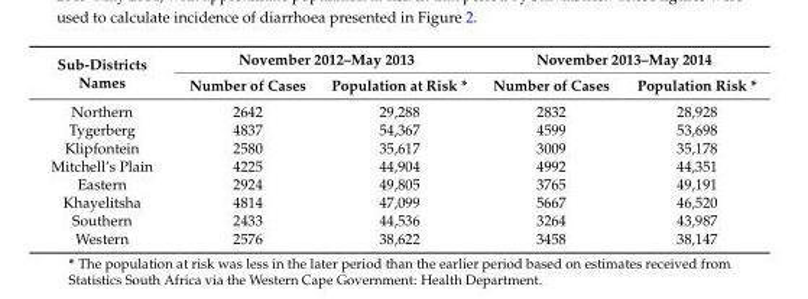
<table><thead><tr><td rowspan="2">Sub-Districts Names</td><td colspan="2">November 2012–May 2013</td><td colspan="2">November 2013–May 2014</td></tr><tr><td>Number of Cases</td><td>Population at Risk *</td><td>Number of Cases</td><td>Population Risk *</td></tr></thead><tbody><tr><td>Northern</td><td>2642</td><td>29,288</td><td>2832</td><td>28,928</td></tr><tr><td>Tygerberg</td><td>4837</td><td>54,367</td><td>4599</td><td>53,698</td></tr><tr><td>Klipfontein</td><td>2580</td><td>35,617</td><td>3009</td><td>35,178</td></tr><tr><td>Mitchell’s Plain</td><td>4225</td><td>44,904</td><td>4992</td><td>44,351</td></tr><tr><td>Eastern</td><td>2924</td><td>49,805</td><td>3765</td><td>49,191</td></tr><tr><td>Khayelitsha</td><td>4814</td><td>47,099</td><td>5667</td><td>46,520</td></tr><tr><td>Southern</td><td>2433</td><td>44,536</td><td>3264</td><td>43,987</td></tr><tr><td>Western</td><td>2576</td><td>38,622</td><td>3458</td><td>38,147</td></tr></tbody></table>